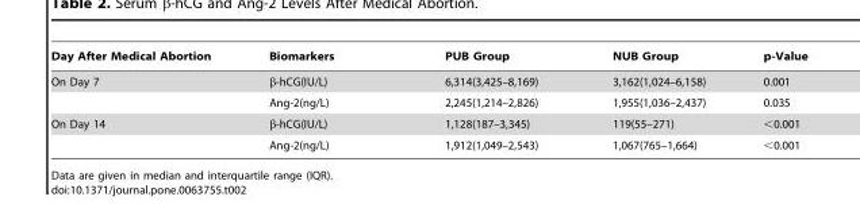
<table><thead><tr><td>Day After Medical Abortion</td><td>Biomarkers</td><td>PUB Group</td><td>NUB Group</td><td>p-Value</td></tr></thead><tbody><tr><td rowspan="2">On Day 7</td><td>β-hCG(IU/L)</td><td>6,314(3,425–8,169)</td><td>3,162(1,024–6,158)</td><td>0.001</td></tr><tr><td>Ang-2(ng/L)</td><td>2,245(1,214–2,826)</td><td>1,955(1,036–2,437)</td><td>0.035</td></tr><tr><td rowspan="2">On Day 14</td><td>β-hCG(IU/L)</td><td>1,128(187–3,345)</td><td>119(55–271)</td><td>&lt;0.001</td></tr><tr><td>Ang-2(ng/L)</td><td>1,912(1,049–2,543)</td><td>1,067(765–1,664)</td><td>&lt;0.001</td></tr></tbody></table>